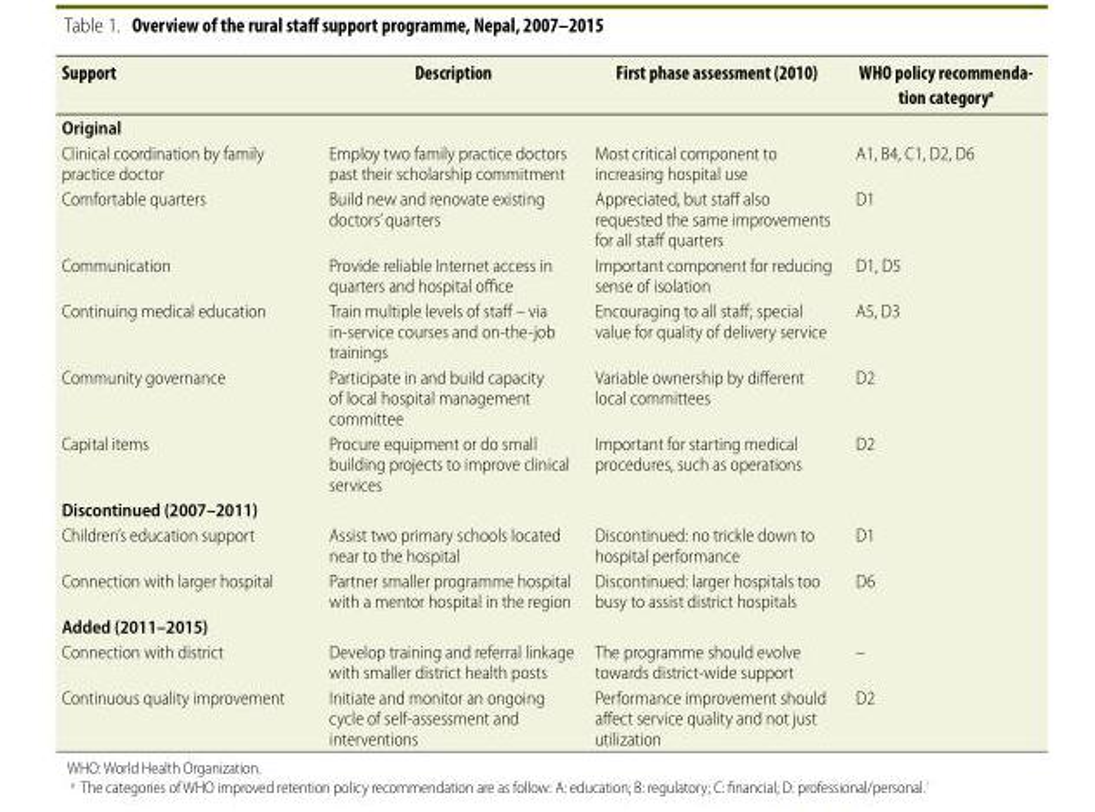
<table><thead><tr><td>Support</td><td>Description</td><td>First phase assessment (2010)</td><td>WHO policy recommenda- tion categorya</td></tr></thead><tbody><tr><td colspan="4">Original</td></tr><tr><td>Clinical coordination by family practice doctor</td><td>Employ two family practice doctors past their scholarship commitment</td><td>Most critical component to increasing hospital use</td><td>A1, B4, C1, D2, D6</td></tr><tr><td>Comfortable quarters</td><td>Build new and renovate existing doctors’ quarters</td><td>Appreciated, but staff also requested the same improvements for all staff quarters</td><td>D1</td></tr><tr><td>Communication</td><td>Provide reliable Internet access in quarters and hospital office</td><td>Important component for reducing sense of isolation</td><td>D1, D5</td></tr><tr><td>Continuing medical education</td><td>Train multiple levels of staff – via in-service courses and on-the-job trainings</td><td>Encouraging to all staff; special value for quality of delivery service</td><td>A5, D3</td></tr><tr><td>Community governance</td><td>Participate in and build capacity of local hospital management committee</td><td>Variable ownership by different local committees</td><td>D2</td></tr><tr><td>Capital items</td><td>Procure equipment or do small building projects to improve clinical services</td><td>Important for starting medical procedures, such as operations</td><td>D2</td></tr><tr><td colspan="4">Discontinued (2007–2011)</td></tr><tr><td>Children’s education support</td><td>Assist two primary schools located near to the hospital</td><td>Discontinued: no trickle down to hospital performance</td><td>D1</td></tr><tr><td>Connection with larger hospital</td><td>Partner smaller programme hospital with a mentor hospital in the region</td><td>Discontinued: larger hospitals too busy to assist district hospitals</td><td>D6</td></tr><tr><td colspan="4">Added (2011–2015)</td></tr><tr><td>Connection with district</td><td>Develop training and referral linkage with smaller district health posts</td><td>The programme should evolve towards district-wide support</td><td>–</td></tr><tr><td>Continuous quality improvement</td><td>Initiate and monitor an ongoing cycle of self-assessment and interventions</td><td>Performance improvement should affect service quality and not just utilization</td><td>D2</td></tr></tbody></table>